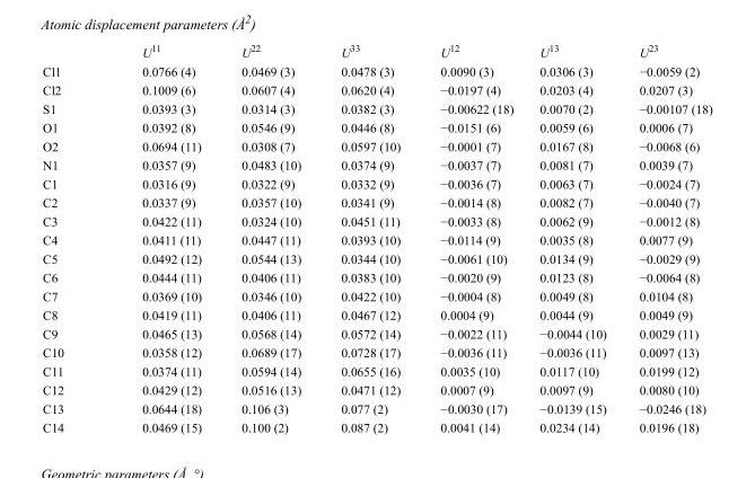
<table><thead><tr><td></td><td>U<sup>11</sup></td><td>U<sup>22</sup></td><td>U<sup>33</sup></td><td>U<sup>12</sup></td><td>U<sup>13</sup></td><td>U<sup>23</sup></td></tr></thead><tbody><tr><td>Cl1</td><td>0.0766 (4)</td><td>0.0469 (3)</td><td>0.0478 (3)</td><td>0.0090 (3)</td><td>0.0306 (3)</td><td>−0.0059 (2)</td></tr><tr><td>Cl2</td><td>0.1009 (6)</td><td>0.0607 (4)</td><td>0.0620 (4)</td><td>−0.0197 (4)</td><td>0.0203 (4)</td><td>0.0207 (3)</td></tr><tr><td>S1</td><td>0.0393 (3)</td><td>0.0314 (3)</td><td>0.0382 (3)</td><td>−0.00622 (18)</td><td>0.0070 (2)</td><td>−0.00107 (18)</td></tr><tr><td>O1</td><td>0.0392 (8)</td><td>0.0546 (9)</td><td>0.0446 (8)</td><td>−0.0151 (6)</td><td>0.0059 (6)</td><td>0.0006 (7)</td></tr><tr><td>O2</td><td>0.0694 (11)</td><td>0.0308 (7)</td><td>0.0597 (10)</td><td>−0.0001 (7)</td><td>0.0167 (8)</td><td>−0.0068 (6)</td></tr><tr><td>N1</td><td>0.0357 (9)</td><td>0.0483 (10)</td><td>0.0374 (9)</td><td>−0.0037 (7)</td><td>0.0081 (7)</td><td>0.0039 (7)</td></tr><tr><td>C1</td><td>0.0316 (9)</td><td>0.0322 (9)</td><td>0.0332 (9)</td><td>−0.0036 (7)</td><td>0.0063 (7)</td><td>−0.0024 (7)</td></tr><tr><td>C2</td><td>0.0337 (9)</td><td>0.0357 (10)</td><td>0.0341 (9)</td><td>−0.0014 (8)</td><td>0.0082 (7)</td><td>−0.0040 (7)</td></tr><tr><td>C3</td><td>0.0422 (11)</td><td>0.0324 (10)</td><td>0.0451 (11)</td><td>−0.0033 (8)</td><td>0.0062 (9)</td><td>−0.0012 (8)</td></tr><tr><td>C4</td><td>0.0411 (11)</td><td>0.0447 (11)</td><td>0.0393 (10)</td><td>−0.0114 (9)</td><td>0.0035 (8)</td><td>0.0077 (9)</td></tr><tr><td>C5</td><td>0.0492 (12)</td><td>0.0544 (13)</td><td>0.0344 (10)</td><td>−0.0061 (10)</td><td>0.0134 (9)</td><td>−0.0029 (9)</td></tr><tr><td>C6</td><td>0.0444 (11)</td><td>0.0406 (11)</td><td>0.0383 (10)</td><td>−0.0020 (9)</td><td>0.0123 (8)</td><td>−0.0064 (8)</td></tr><tr><td>C7</td><td>0.0369 (10)</td><td>0.0346 (10)</td><td>0.0422 (10)</td><td>−0.0004 (8)</td><td>0.0049 (8)</td><td>0.0104 (8)</td></tr><tr><td>C8</td><td>0.0419 (11)</td><td>0.0406 (11)</td><td>0.0467 (12)</td><td>0.0004 (9)</td><td>0.0044 (9)</td><td>0.0049 (9)</td></tr><tr><td>C9</td><td>0.0465 (13)</td><td>0.0568 (14)</td><td>0.0572 (14)</td><td>−0.0022 (11)</td><td>−0.0044 (10)</td><td>0.0029 (11)</td></tr><tr><td>C10</td><td>0.0358 (12)</td><td>0.0689 (17)</td><td>0.0728 (17)</td><td>−0.0036 (11)</td><td>−0.0036 (11)</td><td>0.0097 (13)</td></tr><tr><td>C11</td><td>0.0374 (11)</td><td>0.0594 (14)</td><td>0.0655 (16)</td><td>0.0035 (10)</td><td>0.0117 (10)</td><td>0.0199 (12)</td></tr><tr><td>C12</td><td>0.0429 (12)</td><td>0.0516 (13)</td><td>0.0471 (12)</td><td>0.0007 (9)</td><td>0.0097 (9)</td><td>0.0080 (10)</td></tr><tr><td>C13</td><td>0.0644 (18)</td><td>0.106 (3)</td><td>0.077 (2)</td><td>−0.0030 (17)</td><td>−0.0139 (15)</td><td>−0.0246 (18)</td></tr><tr><td>C14</td><td>0.0469 (15)</td><td>0.100 (2)</td><td>0.087 (2)</td><td>0.0041 (14)</td><td>0.0234 (14)</td><td>0.0196 (18)</td></tr></tbody></table>